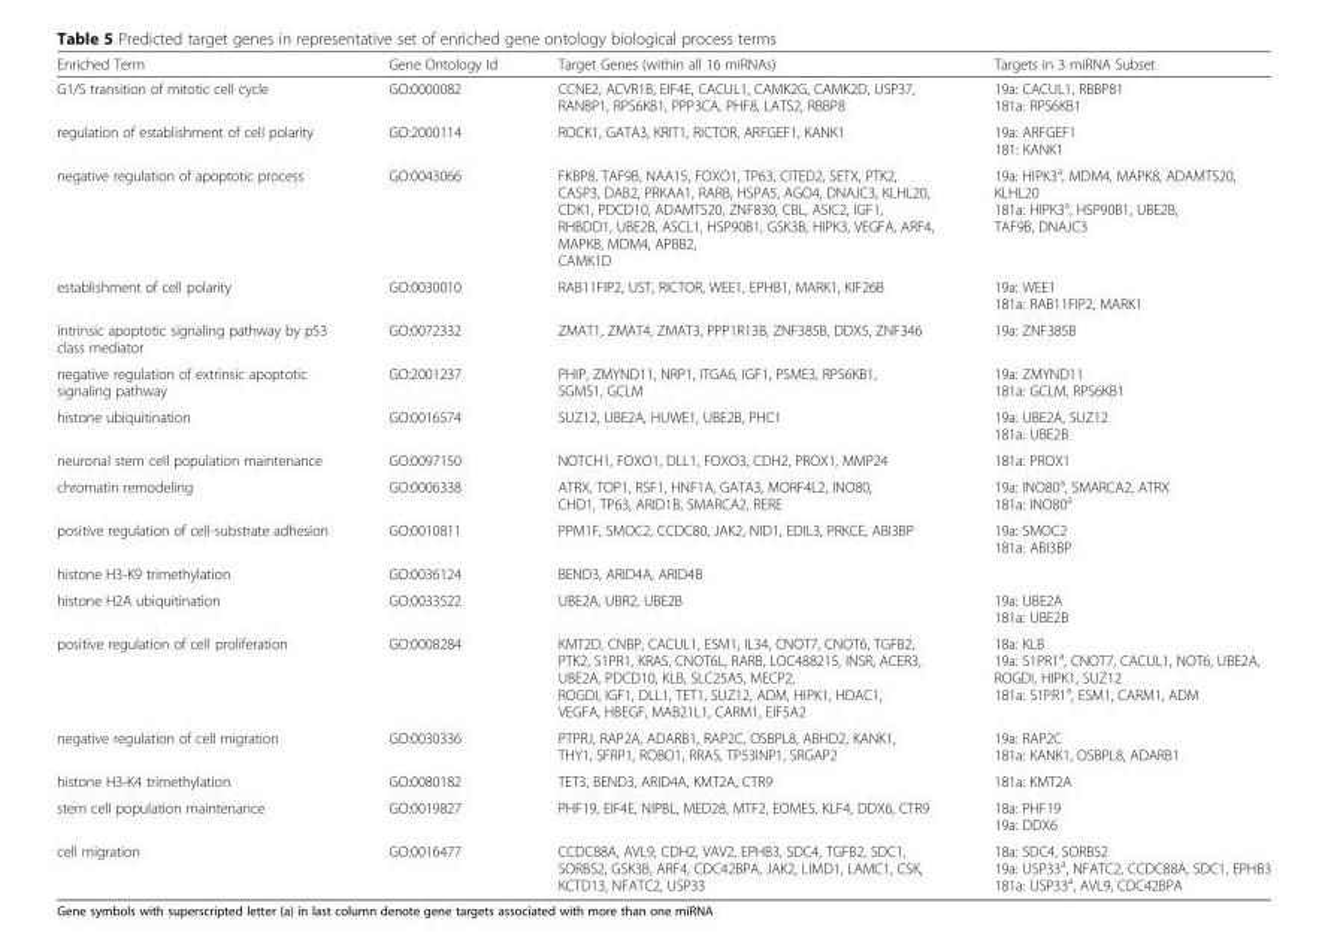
<table><thead><tr><td>Enriched Term</td><td>Gene Ontology Id</td><td>Target Genes (within all 16 miRNAs)</td><td>Targets in 3 miRNA Subset</td></tr></thead><tbody><tr><td>G1/S transition of mitotic cell cycle</td><td>GO:0000082</td><td>CCNE2, ACVR1B, EIF4E, CACUL1, CAMK2G, CAMK2D, USP37, RANBP1, RPS6KB1, PPP3CA, PHF8, LATS2, RBBP8</td><td>19a: CACUL1, RBBP81 181a: RPS6KB1</td></tr><tr><td>regulation of establishment of cell polarity</td><td>GO:2000114</td><td>ROCK1, GATA3, KRIT1, RICTOR, ARFGEF1, KANK1</td><td>19a: ARFGEF1 181: KANK1</td></tr><tr><td>negative regulation of apoptotic process</td><td>GO:0043066</td><td>FKBP8, TAF9B, NAA15, FOXO1, TP63, CITED2, SETX, PTK2, CASP3, DAB2, PRKAA1, RARB, HSPA5, AGO4, DNAJC3, KLHL20, CDK1, PDCD10, ADAMTS20, ZNF830, CBL, ASIC2, IGF1, RHBDD1, UBE2B, ASCL1, HSP90B1, GSK3B, HIPK3, VEGFA, ARF4, MAPK8, MDM4, APBB2, CAMK1D</td><td>19a: HIPK3<sup>a</sup>, MDM4, MAPK8, ADAMTS20, KLHL20 181a: HIPK3<sup>a</sup>, HSP90B1, UBE2B, TAF9B, DNAJC3</td></tr><tr><td>establishment of cell polarity</td><td>GO:0030010</td><td>RAB11FIP2, UST, RICTOR, WEE1, EPHB1, MARK1, KIF26B</td><td>19a: WEE1 181a: RAB11FIP2, MARK1</td></tr><tr><td>intrinsic apoptotic signaling pathway by p53 class mediator</td><td>GO:0072332</td><td>ZMAT1, ZMAT4, ZMAT3, PPP1R13B, ZNF385B, DDX5, ZNF346</td><td>19a: ZNF385B</td></tr><tr><td>negative regulation of extrinsic apoptotic signaling pathway</td><td>GO:2001237</td><td>PHIP, ZMYND11, NRP1, ITGA6, IGF1, PSME3, RPS6KB1, SGMS1, GCLM</td><td>19a: ZMYND11 181a: GCLM, RPS6KB1</td></tr><tr><td>histone ubiquitination</td><td>GO:0016574</td><td>SUZ12, UBE2A, HUWE1, UBE2B, PHC1</td><td>19a: UBE2A, SUZ12 181a: UBE2B</td></tr><tr><td>neuronal stem cell population maintenance</td><td>GO:0097150</td><td>NOTCH1, FOXO1, DLL1, FOXO3, CDH2, PROX1, MMP24</td><td>181a: PROX1</td></tr><tr><td>chromatin remodeling</td><td>GO:0006338</td><td>ATRX, TOP1, RSF1, HNF1A, GATA3, MORF4L2, INO80, CHD1, TP63, ARID1B, SMARCA2, RERE</td><td>19a: INO80<sup>a</sup>, SMARCA2, ATRX 181a: INO80<sup>a</sup></td></tr><tr><td>positive regulation of cell-substrate adhesion</td><td>GO:0010811</td><td>PPM1F, SMOC2, CCDC80, JAK2, NID1, EDIL3, PRKCE, ABI3BP</td><td>19a: SMOC2 181a: ABI3BP</td></tr><tr><td>histone H3-K9 trimethylation</td><td>GO:0036124</td><td>BEND3, ARID4A, ARID4B</td><td></td></tr><tr><td>histone H2A ubiquitination</td><td>GO:0033522</td><td>UBE2A, UBR2, UBE2B</td><td>19a: UBE2A 181a: UBE2B</td></tr><tr><td>positive regulation of cell proliferation</td><td>GO:0008284</td><td>KMT2D, CNBP, CACUL1, ESM1, IL34, CNOT7, CNOT6, TGFB2, PTK2, S1PR1, KRAS, CNOT6L, RARB, LOC488215, INSR, ACER3, UBE2A, PDCD10, KLB, SLC25A5, MECP2, ROGDI, IGF1, DLL1, TET1, SUZ12, ADM, HIPK1, HDAC1, VEGFA, HBEGF, MAB21L1, CARM1, EIF5A2</td><td>18a: KLB 19a: S1PR1<sup>a</sup>, CNOT7, CACUL1, NOT6, UBE2A, ROGDI, HIPK1, SUZ12 181a: S1PR1<sup>a</sup>, ESM1, CARM1, ADM</td></tr><tr><td>negative regulation of cell migration</td><td>GO:0030336</td><td>PTPRJ, RAP2A, ADARB1, RAP2C, OSBPL8, ABHD2, KANK1, THY1, SFRP1, ROBO1, RRAS, TP53INP1, SRGAP2</td><td>19a: RAP2C 181a: KANK1, OSBPL8, ADARB1</td></tr><tr><td>histone H3-K4 trimethylation</td><td>GO:0080182</td><td>TET3, BEND3, ARID4A, KMT2A, CTR9</td><td>181a: KMT2A</td></tr><tr><td>stem cell population maintenance</td><td>GO:0019827</td><td>PHF19, EIF4E, NIPBL, MED28, MTF2, EOMES, KLF4, DDX6, CTR9</td><td>18a: PHF19 19a: DDX6</td></tr><tr><td>cell migration</td><td>GO:0016477</td><td>CCDC88A, AVL9, CDH2, VAV2, EPHB3, SDC4, TGFB2, SDC1, SORBS2, GSK3B, ARF4, CDC42BPA, JAK2, LIMD1, LAMC1, CSK, KCTD13, NFATC2, USP33</td><td>18a: SDC4, SORBS2 19a: USP33<sup>a</sup>, NFATC2, CCDC88A, SDC1, EPHB3 181a: USP33<sup>a</sup>, AVL9, CDC42BPA</td></tr></tbody></table>